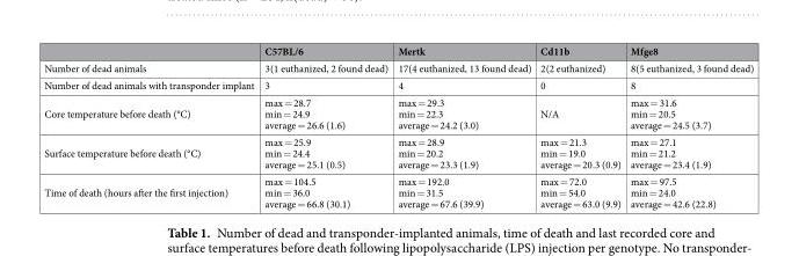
<table><thead><tr><td></td><td>C57BL/6</td><td>Mertk</td><td>Cd11b</td><td>Mfge8</td></tr></thead><tbody><tr><td>Number of dead animals</td><td>3(1 euthanized, 2 found dead)</td><td>17(4 euthanized, 13 found dead)</td><td>2(2 euthanized)</td><td>8(5 euthanized, 3 found dead)</td></tr><tr><td>Number of dead animals with transponder implant</td><td>3</td><td>4</td><td>0</td><td>8</td></tr><tr><td>Core temperature before death (°C)</td><td>max = 28.7 min = 24.9 average = 26.6 (1.6)</td><td>max = 29.3 min = 22.3 average = 24.2 (3.0)</td><td>N/A</td><td>max = 31.6 min = 20.5 average = 24.5 (3.7)</td></tr><tr><td>Surface temperature before death (°C)</td><td>max = 25.9 min = 24.4 average = 25.1 (0.5)</td><td>max = 28.9 min = 20.2 average = 23.3 (1.9)</td><td>max = 21.3 min = 19.0 average = 20.3 (0.9)</td><td>max = 27.1 min = 21.2 average = 23.4 (1.9)</td></tr><tr><td>Time of death (hours after the first injection)</td><td>max = 104.5 min = 36.0 average = 66.8 (30.1)</td><td>max = 192.0 min = 31.5 average = 67.6 (39.9)</td><td>max = 72.0 min = 54.0 average = 63.0 (9.9)</td><td>max = 97.5 min = 24.0 average = 42.6 (22.8)</td></tr></tbody></table>